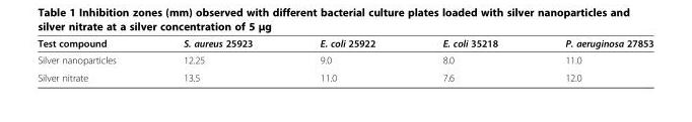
<table><thead><tr><td>Test compound</td><td>S. aureus 25923</td><td>E. coli 25922</td><td>E. coli 35218</td><td>P. aeruginosa 27853</td></tr></thead><tbody><tr><td>Silver nanoparticles</td><td>12.25</td><td>9.0</td><td>8.0</td><td>11.0</td></tr><tr><td>Silver nitrate</td><td>13.5</td><td>11.0</td><td>7.6</td><td>12.0</td></tr></tbody></table>